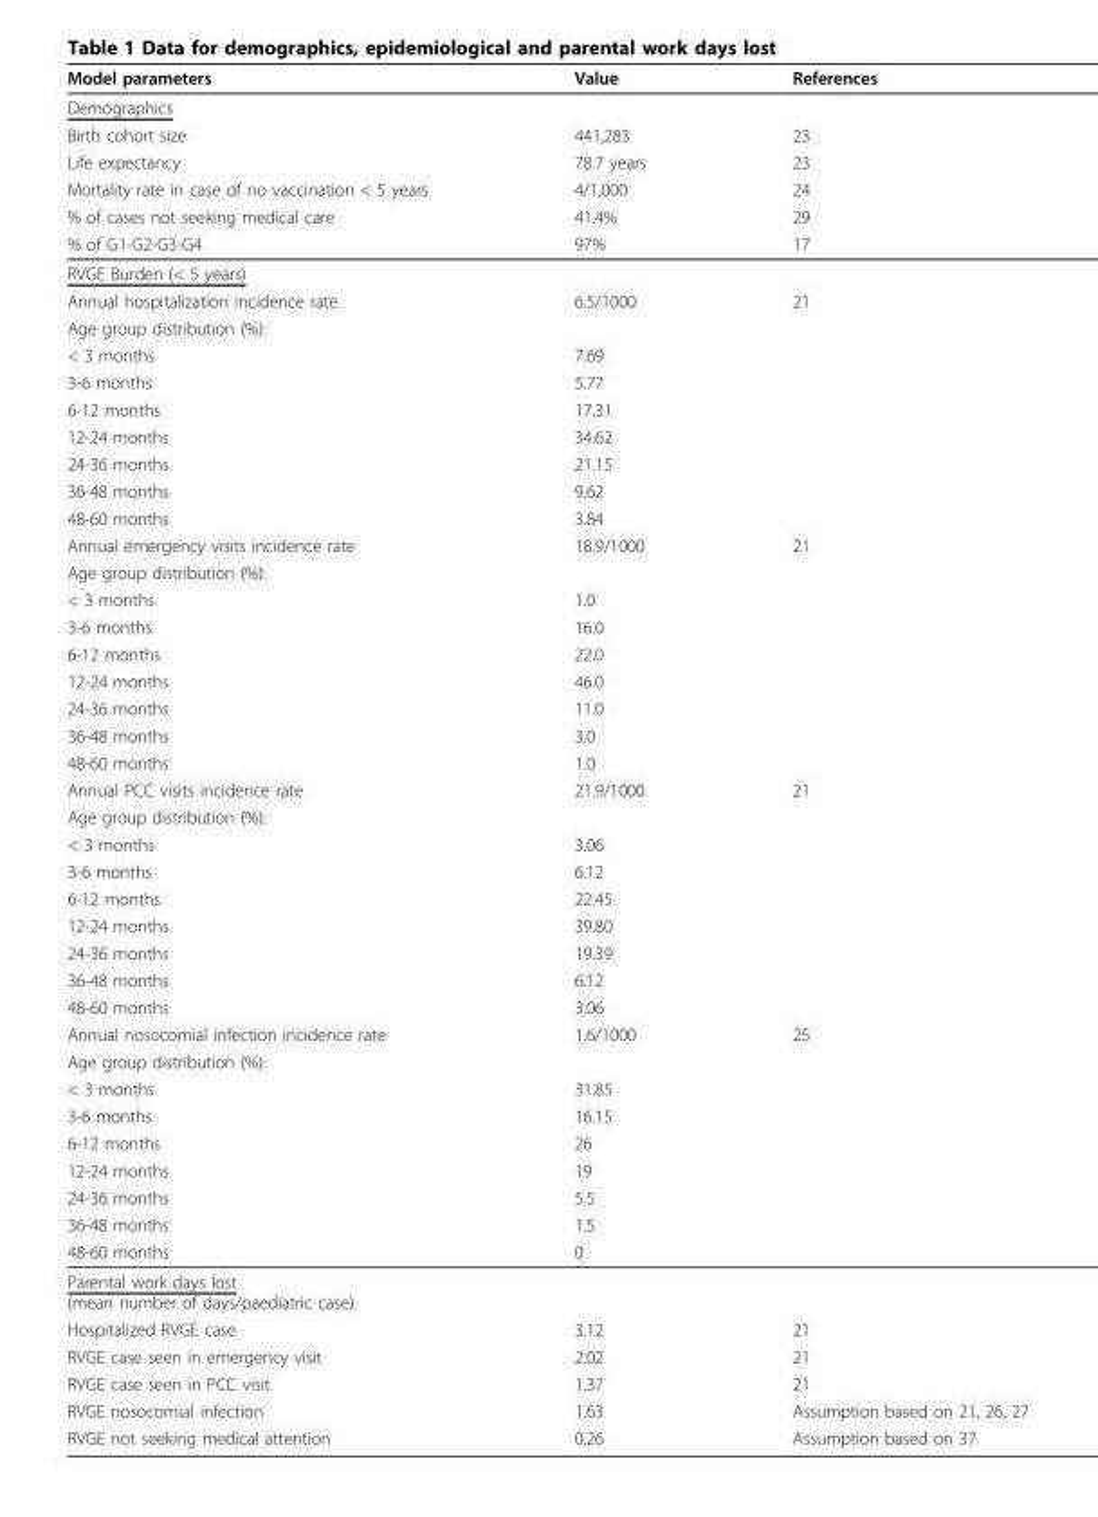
<table><thead><tr><td>Model parameters</td><td>Value</td><td>References</td></tr></thead><tbody><tr><td colspan="3">Demographics</td></tr><tr><td>Birth cohort size</td><td>441,283</td><td>23</td></tr><tr><td>Life expectancy</td><td>78.7 years</td><td>23</td></tr><tr><td>Mortality rate in case of no vaccination &lt; 5 years</td><td>4/1,000</td><td>24</td></tr><tr><td>% of cases not seeking medical care</td><td>41.4%</td><td>29</td></tr><tr><td>% of G1-G2-G3-G4</td><td>97%</td><td>17</td></tr><tr><td colspan="3">RVGE Burden (&lt; 5 years)</td></tr><tr><td>Annual hospitalization incidence rate</td><td>6.5/1000</td><td>21</td></tr><tr><td colspan="3">Age group distribution (%):</td></tr><tr><td>&lt; 3 months</td><td>7.69</td><td></td></tr><tr><td>3-6 months</td><td>5.77</td><td></td></tr><tr><td>6-12 months</td><td>17.31</td><td></td></tr><tr><td>12-24 months</td><td>34.62</td><td></td></tr><tr><td>24-36 months</td><td>21.15</td><td></td></tr><tr><td>36-48 months</td><td>9.62</td><td></td></tr><tr><td>48-60 months</td><td>3.84</td><td></td></tr><tr><td>Annual emergency visits incidence rate</td><td>18.9/1000</td><td>21</td></tr><tr><td colspan="3">Age group distribution (%):</td></tr><tr><td>&lt; 3 months</td><td>1.0</td><td></td></tr><tr><td>3-6 months</td><td>16.0</td><td></td></tr><tr><td>6-12 months</td><td>22.0</td><td></td></tr><tr><td>12-24 months</td><td>46.0</td><td></td></tr><tr><td>24-36 months</td><td>11.0</td><td></td></tr><tr><td>36-48 months</td><td>3.0</td><td></td></tr><tr><td>48-60 months</td><td>1.0</td><td></td></tr><tr><td>Annual PCC visits incidence rate</td><td>21.9/1000</td><td>21</td></tr><tr><td colspan="3">Age group distribution (%):</td></tr><tr><td>&lt; 3 months</td><td>3.06</td><td></td></tr><tr><td>3-6 months</td><td>6.12</td><td></td></tr><tr><td>6-12 months</td><td>22.45</td><td></td></tr><tr><td>12-24 months</td><td>39.80</td><td></td></tr><tr><td>24-36 months</td><td>19.39</td><td></td></tr><tr><td>36-48 months</td><td>6.12</td><td></td></tr><tr><td>48-60 months</td><td>3.06</td><td></td></tr><tr><td>Annual nosocomial infection incidence rate</td><td>1.6/1000</td><td>25</td></tr><tr><td colspan="3">Age group distribution (%):</td></tr><tr><td>&lt; 3 months</td><td>31.85</td><td></td></tr><tr><td>3-6 months</td><td>16.15</td><td></td></tr><tr><td>6-12 months</td><td>26</td><td></td></tr><tr><td>12-24 months</td><td>19</td><td></td></tr><tr><td>24-36 months</td><td>5.5</td><td></td></tr><tr><td>36-48 months</td><td>1.5</td><td></td></tr><tr><td>48-60 months</td><td>0</td><td></td></tr><tr><td colspan="3">Parental work days lost (mean number of days/paediatric case)</td></tr><tr><td>Hospitalized RVGE case</td><td>3.12</td><td>21</td></tr><tr><td>RVGE case seen in emergency visit</td><td>2.02</td><td>21</td></tr><tr><td>RVGE case seen in PCC visit</td><td>1.37</td><td>21</td></tr><tr><td>RVGE nosocomial infection</td><td>1.63</td><td>Assumption based on 21, 26, 27</td></tr><tr><td>RVGE not seeking medical attention</td><td>0.26</td><td>Assumption based on 37</td></tr></tbody></table>